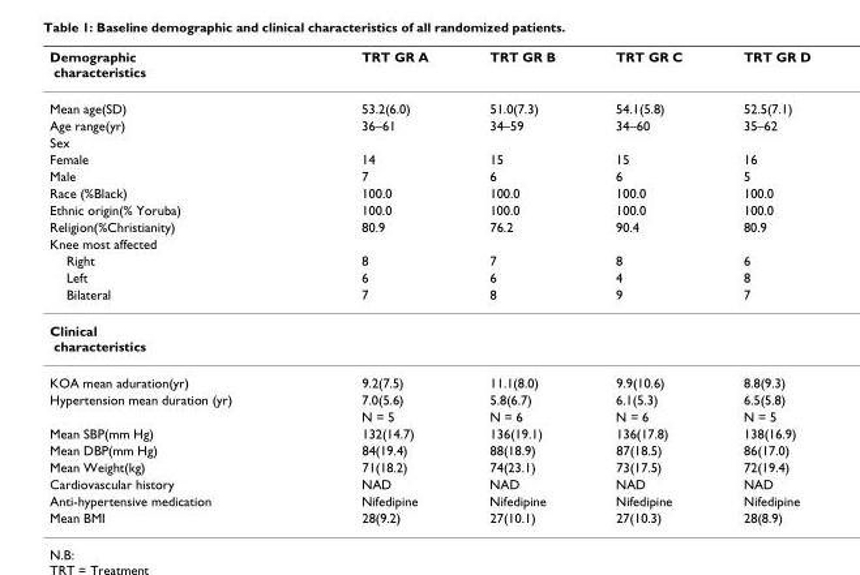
<table><thead><tr><td>Demographic characteristics</td><td>TRT GR A</td><td>TRT GR B</td><td>TRT GR C</td><td>TRT GR D</td></tr></thead><tbody><tr><td>Mean age(SD)</td><td>53.2(6.0)</td><td>51.0(7.3)</td><td>54.1(5.8)</td><td>52.5(7.1)</td></tr><tr><td>Age range(yr)</td><td>36–61</td><td>34–59</td><td>34–60</td><td>35–62</td></tr><tr><td colspan="5">Sex</td></tr><tr><td>Female</td><td>14</td><td>15</td><td>15</td><td>16</td></tr><tr><td>Male</td><td>7</td><td>6</td><td>6</td><td>5</td></tr><tr><td>Race (%Black)</td><td>100.0</td><td>100.0</td><td>100.0</td><td>100.0</td></tr><tr><td>Ethnic origin(% Yoruba)</td><td>100.0</td><td>100.0</td><td>100.0</td><td>100.0</td></tr><tr><td>Religion(%Christianity)</td><td>80.9</td><td>76.2</td><td>90.4</td><td>80.9</td></tr><tr><td colspan="5">Knee most affected</td></tr><tr><td>Right</td><td>8</td><td>7</td><td>8</td><td>6</td></tr><tr><td>Left</td><td>6</td><td>6</td><td>4</td><td>8</td></tr><tr><td>Bilateral</td><td>7</td><td>8</td><td>9</td><td>7</td></tr><tr><td colspan="5">Clinical characteristics</td></tr><tr><td>KOA mean aduration(yr)</td><td>9.2(7.5)</td><td>11.1(8.0)</td><td>9.9(10.6)</td><td>8.8(9.3)</td></tr><tr><td rowspan="2">Hypertension mean duration (yr)</td><td>7.0(5.6)</td><td>5.8(6.7)</td><td>6.1(5.3)</td><td>6.5(5.8)</td></tr><tr><td>N = 5</td><td>N = 6</td><td>N = 6</td><td>N = 5</td></tr><tr><td>Mean SBP(mm Hg)</td><td>132(14.7)</td><td>136(19.1)</td><td>136(17.8)</td><td>138(16.9)</td></tr><tr><td>Mean DBP(mm Hg)</td><td>84(19.4)</td><td>88(18.9)</td><td>87(18.5)</td><td>86(17.0)</td></tr><tr><td>Mean Weight(kg)</td><td>71(18.2)</td><td>74(23.1)</td><td>73(17.5)</td><td>72(19.4)</td></tr><tr><td>Cardiovascular history</td><td>NAD</td><td>NAD</td><td>NAD</td><td>NAD</td></tr><tr><td>Anti-hypertensive medication</td><td>Nifedipine</td><td>Nifedipine</td><td>Nifedipine</td><td>Nifedipine</td></tr><tr><td>Mean BMI</td><td>28(9.2)</td><td>27(10.1)</td><td>27(10.3)</td><td>28(8.9)</td></tr></tbody></table>